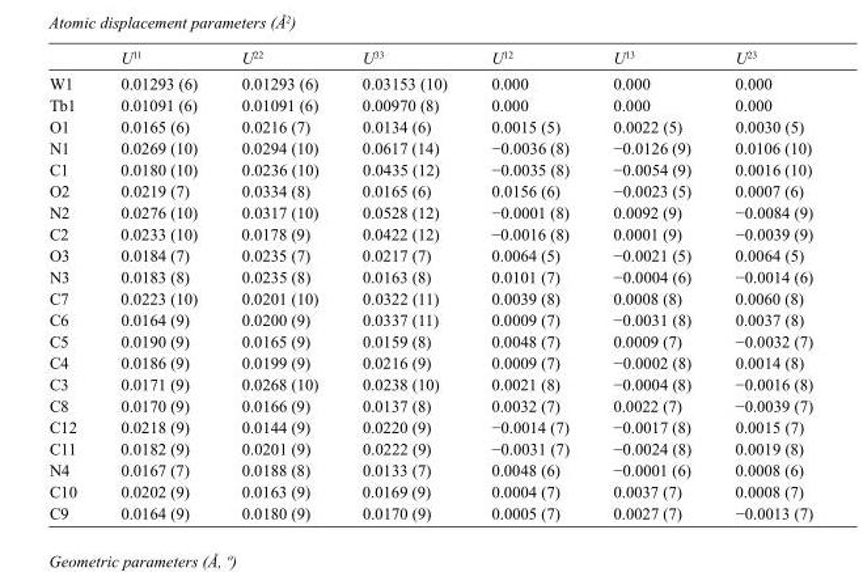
<table><thead><tr><td></td><td>U<sup>11</sup></td><td>U<sup>22</sup></td><td>U<sup>33</sup></td><td>U<sup>12</sup></td><td>U<sup>13</sup></td><td>U<sup>23</sup></td></tr></thead><tbody><tr><td>W1</td><td>0.01293 (6)</td><td>0.01293 (6)</td><td>0.03153 (10)</td><td>0.000</td><td>0.000</td><td>0.000</td></tr><tr><td>Tb1</td><td>0.01091 (6)</td><td>0.01091 (6)</td><td>0.00970 (8)</td><td>0.000</td><td>0.000</td><td>0.000</td></tr><tr><td>O1</td><td>0.0165 (6)</td><td>0.0216 (7)</td><td>0.0134 (6)</td><td>0.0015 (5)</td><td>0.0022 (5)</td><td>0.0030 (5)</td></tr><tr><td>N1</td><td>0.0269 (10)</td><td>0.0294 (10)</td><td>0.0617 (14)</td><td>−0.0036 (8)</td><td>−0.0126 (9)</td><td>0.0106 (10)</td></tr><tr><td>C1</td><td>0.0180 (10)</td><td>0.0236 (10)</td><td>0.0435 (12)</td><td>−0.0035 (8)</td><td>−0.0054 (9)</td><td>0.0016 (10)</td></tr><tr><td>O2</td><td>0.0219 (7)</td><td>0.0334 (8)</td><td>0.0165 (6)</td><td>0.0156 (6)</td><td>−0.0023 (5)</td><td>0.0007 (6)</td></tr><tr><td>N2</td><td>0.0276 (10)</td><td>0.0317 (10)</td><td>0.0528 (12)</td><td>−0.0001 (8)</td><td>0.0092 (9)</td><td>−0.0084 (9)</td></tr><tr><td>C2</td><td>0.0233 (10)</td><td>0.0178 (9)</td><td>0.0422 (12)</td><td>−0.0016 (8)</td><td>0.0001 (9)</td><td>−0.0039 (9)</td></tr><tr><td>O3</td><td>0.0184 (7)</td><td>0.0235 (7)</td><td>0.0217 (7)</td><td>0.0064 (5)</td><td>−0.0021 (5)</td><td>0.0064 (5)</td></tr><tr><td>N3</td><td>0.0183 (8)</td><td>0.0235 (8)</td><td>0.0163 (8)</td><td>0.0101 (7)</td><td>−0.0004 (6)</td><td>−0.0014 (6)</td></tr><tr><td>C7</td><td>0.0223 (10)</td><td>0.0201 (10)</td><td>0.0322 (11)</td><td>0.0039 (8)</td><td>0.0008 (8)</td><td>0.0060 (8)</td></tr><tr><td>C6</td><td>0.0164 (9)</td><td>0.0200 (9)</td><td>0.0337 (11)</td><td>0.0009 (7)</td><td>−0.0031 (8)</td><td>0.0037 (8)</td></tr><tr><td>C5</td><td>0.0190 (9)</td><td>0.0165 (9)</td><td>0.0159 (8)</td><td>0.0048 (7)</td><td>0.0009 (7)</td><td>−0.0032 (7)</td></tr><tr><td>C4</td><td>0.0186 (9)</td><td>0.0199 (9)</td><td>0.0216 (9)</td><td>0.0009 (7)</td><td>−0.0002 (8)</td><td>0.0014 (8)</td></tr><tr><td>C3</td><td>0.0171 (9)</td><td>0.0268 (10)</td><td>0.0238 (10)</td><td>0.0021 (8)</td><td>−0.0004 (8)</td><td>−0.0016 (8)</td></tr><tr><td>C8</td><td>0.0170 (9)</td><td>0.0166 (9)</td><td>0.0137 (8)</td><td>0.0032 (7)</td><td>0.0022 (7)</td><td>−0.0039 (7)</td></tr><tr><td>C12</td><td>0.0218 (9)</td><td>0.0144 (9)</td><td>0.0220 (9)</td><td>−0.0014 (7)</td><td>−0.0017 (8)</td><td>0.0015 (7)</td></tr><tr><td>C11</td><td>0.0182 (9)</td><td>0.0201 (9)</td><td>0.0222 (9)</td><td>−0.0031 (7)</td><td>−0.0024 (8)</td><td>0.0019 (8)</td></tr><tr><td>N4</td><td>0.0167 (7)</td><td>0.0188 (8)</td><td>0.0133 (7)</td><td>0.0048 (6)</td><td>−0.0001 (6)</td><td>0.0008 (6)</td></tr><tr><td>C10</td><td>0.0202 (9)</td><td>0.0163 (9)</td><td>0.0169 (9)</td><td>0.0004 (7)</td><td>0.0037 (7)</td><td>0.0008 (7)</td></tr><tr><td>C9</td><td>0.0164 (9)</td><td>0.0180 (9)</td><td>0.0170 (9)</td><td>0.0005 (7)</td><td>0.0027 (7)</td><td>−0.0013 (7)</td></tr></tbody></table>